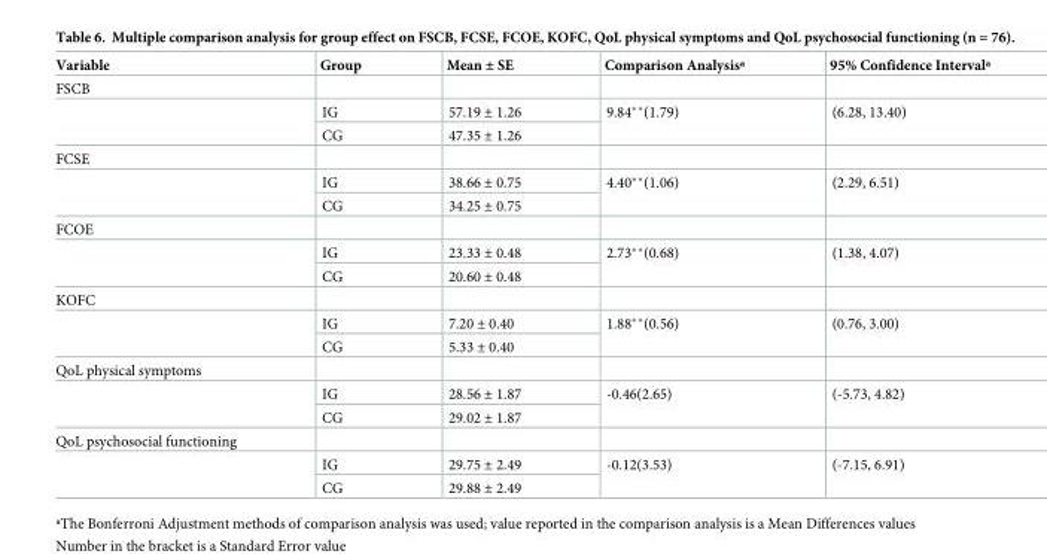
<table><thead><tr><td>Variable</td><td>Group</td><td>Mean ± SE</td><td>Comparison Analysisª</td><td>95% Confidence Intervalª</td></tr></thead><tbody><tr><td colspan="5">FSCB</td></tr><tr><td rowspan="2"></td><td>IG</td><td>57.19 ± 1.26</td><td rowspan="2">9.84**(1.79)</td><td rowspan="2">(6.28, 13.40)</td></tr><tr><td>CG</td><td>47.35 ± 1.26</td></tr><tr><td colspan="5">FCSE</td></tr><tr><td rowspan="2"></td><td>IG</td><td>38.66 ± 0.75</td><td rowspan="2">4.40**(1.06)</td><td rowspan="2">(2.29, 6.51)</td></tr><tr><td>CG</td><td>34.25 ± 0.75</td></tr><tr><td colspan="5">FCOE</td></tr><tr><td rowspan="2"></td><td>IG</td><td>23.33 ± 0.48</td><td rowspan="2">2.73**(0.68)</td><td rowspan="2">(1.38, 4.07)</td></tr><tr><td>CG</td><td>20.60 ± 0.48</td></tr><tr><td colspan="5">KOFC</td></tr><tr><td rowspan="2"></td><td>IG</td><td>7.20 ± 0.40</td><td rowspan="2">1.88**(0.56)</td><td rowspan="2">(0.76, 3.00)</td></tr><tr><td>CG</td><td>5.33 ± 0.40</td></tr><tr><td colspan="5">QoL physical symptoms</td></tr><tr><td rowspan="2"></td><td>IG</td><td>28.56 ± 1.87</td><td rowspan="2">-0.46(2.65)</td><td rowspan="2">(-5.73, 4.82)</td></tr><tr><td>CG</td><td>29.02 ± 1.87</td></tr><tr><td colspan="5">QoL psychosocial functioning</td></tr><tr><td rowspan="2"></td><td>IG</td><td>29.75 ± 2.49</td><td rowspan="2">-0.12(3.53)</td><td rowspan="2">(-7.15, 6.91)</td></tr><tr><td>CG</td><td>29.88 ± 2.49</td></tr></tbody></table>